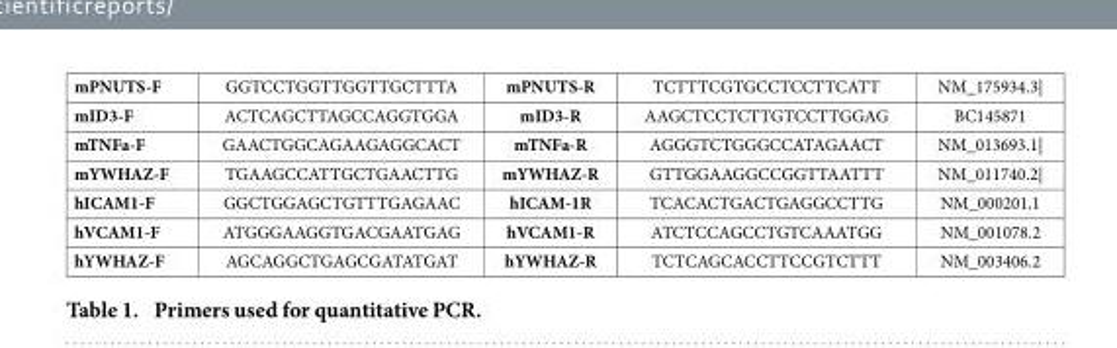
<table><tbody><tr><td>mPNUTS-F</td><td>GGTCCTGGTTGGTTGCTTTA</td><td>mPNUTS-R</td><td>TCTTTCGTGCCTCCTTCATT</td><td>NM_175934.3|</td></tr><tr><td>mID3-F</td><td>ACTCAGCTTAGCCAGGTGGA</td><td>mID3-R</td><td>AAGCTCCTCTTGTCCTTGGAG</td><td>BC145871</td></tr><tr><td>mTNFa-F</td><td>GAACTGGCAGAAGAGGCACT</td><td>mTNFa-R</td><td>AGGGTCTGGGCCATAGAACT</td><td>NM_013693.1|</td></tr><tr><td>mYWHAZ-F</td><td>TGAAGCCATTGCTGAACTTG</td><td>mYWHAZ-R</td><td>GTTGGAAGGCCGGTTAATTT</td><td>NM_011740.2|</td></tr><tr><td>hICAM1-F</td><td>GGCTGGAGCTGTTTGAGAAC</td><td>hICAM-1R</td><td>TCACACTGACTGAGGCCTTG</td><td>NM_000201.1</td></tr><tr><td>hVCAM1-F</td><td>ATGGGAAGGTGACGAATGAG</td><td>hVCAM1-R</td><td>ATCTCCAGCCTGTCAAATGG</td><td>NM_001078.2</td></tr><tr><td>hYWHAZ-F</td><td>AGCAGGCTGAGCGATATGAT</td><td>hYWHAZ-R</td><td>TCTCAGCACCTTCCGTCTTT</td><td>NM_003406.2</td></tr></tbody></table>